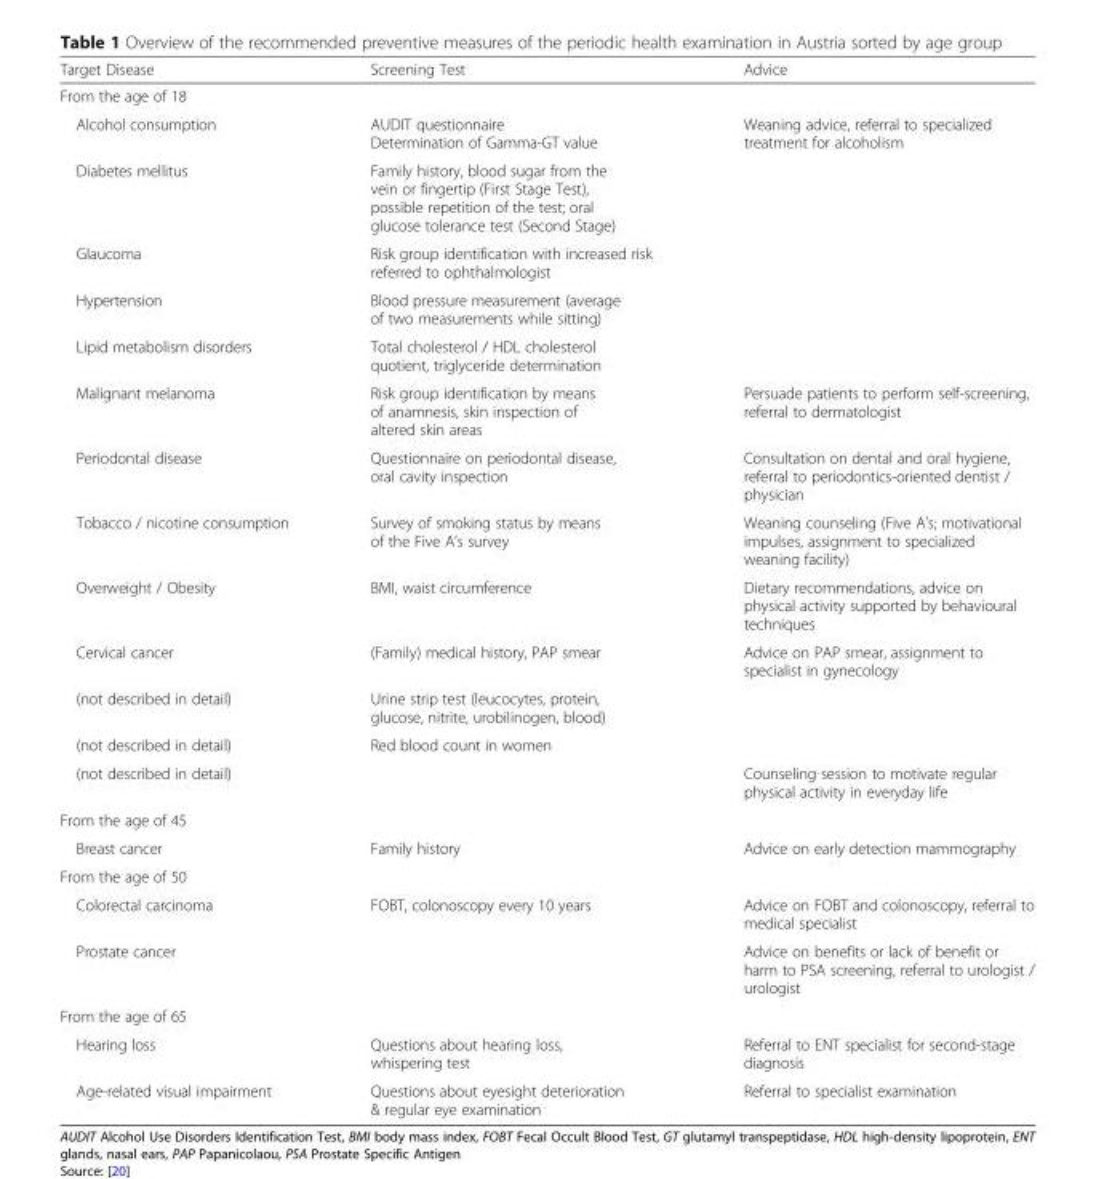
<table><thead><tr><td>Target Disease</td><td>Screening Test</td><td>Advice</td></tr></thead><tbody><tr><td colspan="3">From the age of 18</td></tr><tr><td>Alcohol consumption</td><td>AUDIT questionnaire Determination of Gamma-GT value</td><td>Weaning advice, referral to specialized treatment for alcoholism</td></tr><tr><td>Diabetes mellitus</td><td>Family history, blood sugar from the vein or fingertip (First Stage Test), possible repetition of the test; oral glucose tolerance test (Second Stage)</td><td></td></tr><tr><td>Glaucoma</td><td>Risk group identification with increased risk referred to ophthalmologist</td><td></td></tr><tr><td>Hypertension</td><td>Blood pressure measurement (average of two measurements while sitting)</td><td></td></tr><tr><td>Lipid metabolism disorders</td><td>Total cholesterol / HDL cholesterol quotient, triglyceride determination</td><td></td></tr><tr><td>Malignant melanoma</td><td>Risk group identification by means of anamnesis, skin inspection of altered skin areas</td><td>Persuade patients to perform self-screening, referral to dermatologist</td></tr><tr><td>Periodontal disease</td><td>Questionnaire on periodontal disease, oral cavity inspection</td><td>Consultation on dental and oral hygiene, referral to periodontics-oriented dentist / physician</td></tr><tr><td>Tobacco / nicotine consumption</td><td>Survey of smoking status by means of the Five A’s survey</td><td>Weaning counseling (Five A’s; motivational impulses, assignment to specialized weaning facility)</td></tr><tr><td>Overweight / Obesity</td><td>BMI, waist circumference</td><td>Dietary recommendations, advice on physical activity supported by behavioural techniques</td></tr><tr><td>Cervical cancer</td><td>(Family) medical history, PAP smear</td><td>Advice on PAP smear, assignment to specialist in gynecology</td></tr><tr><td>(not described in detail)</td><td>Urine strip test (leucocytes, protein, glucose, nitrite, urobilinogen, blood)</td><td></td></tr><tr><td>(not described in detail)</td><td>Red blood count in women</td><td></td></tr><tr><td>(not described in detail)</td><td></td><td>Counseling session to motivate regular physical activity in everyday life</td></tr><tr><td colspan="3">From the age of 45</td></tr><tr><td>Breast cancer</td><td>Family history</td><td>Advice on early detection mammography</td></tr><tr><td colspan="3">From the age of 50</td></tr><tr><td>Colorectal carcinoma</td><td>FOBT, colonoscopy every 10 years</td><td>Advice on FOBT and colonoscopy, referral to medical specialist</td></tr><tr><td>Prostate cancer</td><td></td><td>Advice on benefits or lack of benefit or harm to PSA screening, referral to urologist / urologist</td></tr><tr><td colspan="3">From the age of 65</td></tr><tr><td>Hearing loss</td><td>Questions about hearing loss, whispering test</td><td>Referral to ENT specialist for second-stage diagnosis</td></tr><tr><td>Age-related visual impairment</td><td>Questions about eyesight deterioration &amp; regular eye examination</td><td>Referral to specialist examination</td></tr></tbody></table>